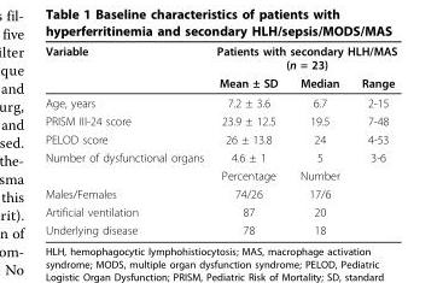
<table><thead><tr><td rowspan="2">Variable</td><td colspan="3">Patients with secondary HLH/MAS (n = 23)</td></tr><tr><td>Mean ± SD</td><td>Median</td><td>Range</td></tr></thead><tbody><tr><td>Age, years</td><td>7.2 ± 3.6</td><td>6.7</td><td>2-15</td></tr><tr><td>PRISM III-24 score</td><td>23.9 ± 12.5</td><td>19.5</td><td>7-48</td></tr><tr><td>PELOD score</td><td>26 ± 13.8</td><td>24</td><td>4-53</td></tr><tr><td rowspan="2">Number of dysfunctional organs</td><td>4.6 ± 1</td><td>5</td><td>3-6</td></tr><tr><td>Percentage</td><td>Number</td><td></td></tr><tr><td>Males/Females</td><td>74/26</td><td>17/6</td><td></td></tr><tr><td>Artificial ventilation</td><td>87</td><td>20</td><td></td></tr><tr><td>Underlying disease</td><td>78</td><td>18</td><td></td></tr></tbody></table>